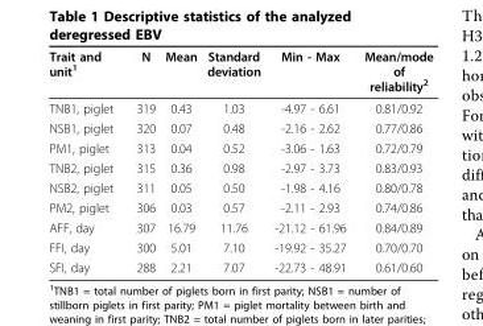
<table><thead><tr><td>Trait and unit<sup>1</sup></td><td>N</td><td>Mean</td><td>Standard deviation</td><td>Min - Max</td><td>Mean/mode of reliability<sup>2</sup></td></tr></thead><tbody><tr><td>TNB1, piglet</td><td>319</td><td>0.43</td><td>1.03</td><td>-4.97 - 6.61</td><td>0.81/0.92</td></tr><tr><td>NSB1, piglet</td><td>320</td><td>0.07</td><td>0.48</td><td>-2.16 - 2.62</td><td>0.77/0.86</td></tr><tr><td>PM1, piglet</td><td>313</td><td>0.04</td><td>0.52</td><td>-3.06 - 1.63</td><td>0.72/0.79</td></tr><tr><td>TNB2, piglet</td><td>315</td><td>0.36</td><td>0.98</td><td>-2.97 - 3.73</td><td>0.83/0.93</td></tr><tr><td>NSB2, piglet</td><td>311</td><td>0.05</td><td>0.50</td><td>-1.98 - 4.16</td><td>0.80/0.78</td></tr><tr><td>PM2, piglet</td><td>306</td><td>0.03</td><td>0.57</td><td>-2.11 - 2.93</td><td>0.74/0.86</td></tr><tr><td>AFF, day</td><td>307</td><td>16.79</td><td>11.76</td><td>-21.12 - 61.96</td><td>0.84/0.89</td></tr><tr><td>FFI, day</td><td>300</td><td>5.01</td><td>7.10</td><td>-19.92 - 35.27</td><td>0.70/0.70</td></tr><tr><td>SFI, day</td><td>288</td><td>2.21</td><td>7.07</td><td>-22.73 - 48.91</td><td>0.61/0.60</td></tr></tbody></table>